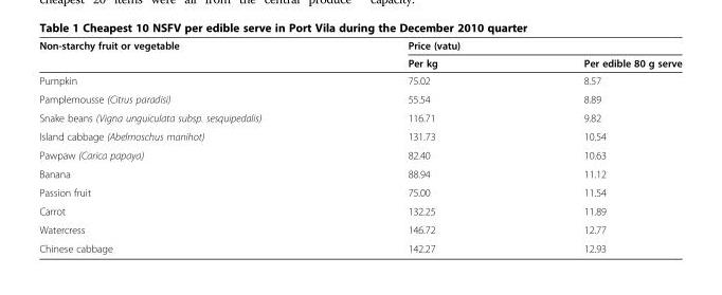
<table><thead><tr><td rowspan="2">Non-starchy fruit or vegetable</td><td colspan="2">Price (vatu)</td></tr><tr><td>Per kg</td><td>Per edible 80 g serve</td></tr></thead><tbody><tr><td>Pumpkin</td><td>75.02</td><td>8.57</td></tr><tr><td>Pamplemousse (Citrus paradisi)</td><td>55.54</td><td>8.89</td></tr><tr><td>Snake beans (Vigna unguiculata subsp. sesquipedalis)</td><td>116.71</td><td>9.82</td></tr><tr><td>Island cabbage (Abelmoschus manihot)</td><td>131.73</td><td>10.54</td></tr><tr><td>Pawpaw (Carica papaya)</td><td>82.40</td><td>10.63</td></tr><tr><td>Banana</td><td>88.94</td><td>11.12</td></tr><tr><td>Passion fruit</td><td>75.00</td><td>11.54</td></tr><tr><td>Carrot</td><td>132.25</td><td>11.89</td></tr><tr><td>Watercress</td><td>146.72</td><td>12.77</td></tr><tr><td>Chinese cabbage</td><td>142.27</td><td>12.93</td></tr></tbody></table>